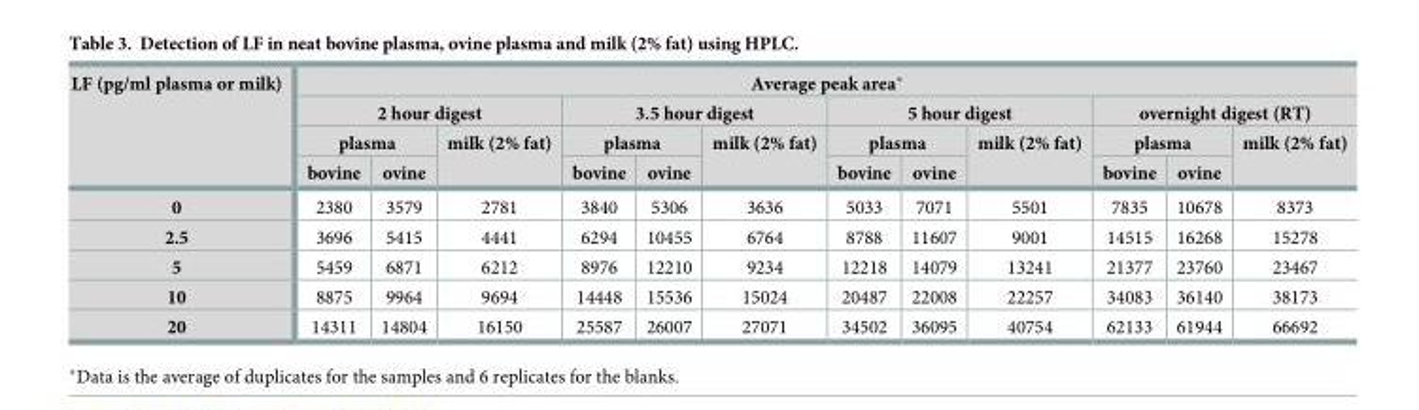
<table><thead><tr><td rowspan="4">LF (pg/ml plasma or milk)</td><td colspan="12">Average peak area*</td></tr><tr><td colspan="3">2 hour digest</td><td colspan="3">3.5 hour digest</td><td colspan="3">5 hour digest</td><td colspan="3">overnight digest (RT)</td></tr><tr><td colspan="2">plasma</td><td rowspan="2">milk (2% fat)</td><td colspan="2">plasma</td><td rowspan="2">milk (2% fat)</td><td colspan="2">plasma</td><td rowspan="2">milk (2% fat)</td><td colspan="2">plasma</td><td rowspan="2">milk (2% fat)</td></tr><tr><td>bovine</td><td>ovine</td><td>bovine</td><td>ovine</td><td>bovine</td><td>ovine</td><td>bovine</td><td>ovine</td></tr></thead><tbody><tr><td>0</td><td>2380</td><td>3579</td><td>2781</td><td>3840</td><td>5306</td><td>3636</td><td>5033</td><td>7071</td><td>5501</td><td>7835</td><td>10678</td><td>8373</td></tr><tr><td>2.5</td><td>3696</td><td>5415</td><td>4441</td><td>6294</td><td>10455</td><td>6764</td><td>8788</td><td>11607</td><td>9001</td><td>14515</td><td>16268</td><td>15278</td></tr><tr><td>5</td><td>5459</td><td>6871</td><td>6212</td><td>8976</td><td>12210</td><td>9234</td><td>12218</td><td>14079</td><td>13241</td><td>21377</td><td>23760</td><td>23467</td></tr><tr><td>10</td><td>8875</td><td>9964</td><td>9694</td><td>14448</td><td>15536</td><td>15024</td><td>20487</td><td>22008</td><td>22257</td><td>34083</td><td>36140</td><td>38173</td></tr><tr><td>20</td><td>14311</td><td>14804</td><td>16150</td><td>25587</td><td>26007</td><td>27071</td><td>34502</td><td>36095</td><td>40754</td><td>62133</td><td>61944</td><td>66692</td></tr></tbody></table>